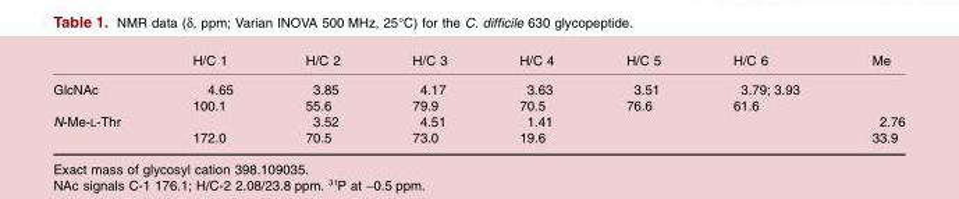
<table><thead><tr><td></td><td>H/C 1</td><td>H/C 2</td><td>H/C 3</td><td>H/C 4</td><td>H/C 5</td><td>H/C 6</td><td>Me</td></tr></thead><tbody><tr><td rowspan="2">GlcNAc</td><td>4.65</td><td>3.85</td><td>4.17</td><td>3.63</td><td>3.51</td><td>3.79; 3.93</td><td></td></tr><tr><td>100.1</td><td>55.6</td><td>79.9</td><td>70.5</td><td>76.6</td><td>61.6</td><td></td></tr><tr><td rowspan="2">N-Me-L-Thr</td><td></td><td>3.52</td><td>4.51</td><td>1.41</td><td></td><td></td><td>2.76</td></tr><tr><td>172.0</td><td>70.5</td><td>73.0</td><td>19.6</td><td></td><td></td><td>33.9</td></tr></tbody></table>